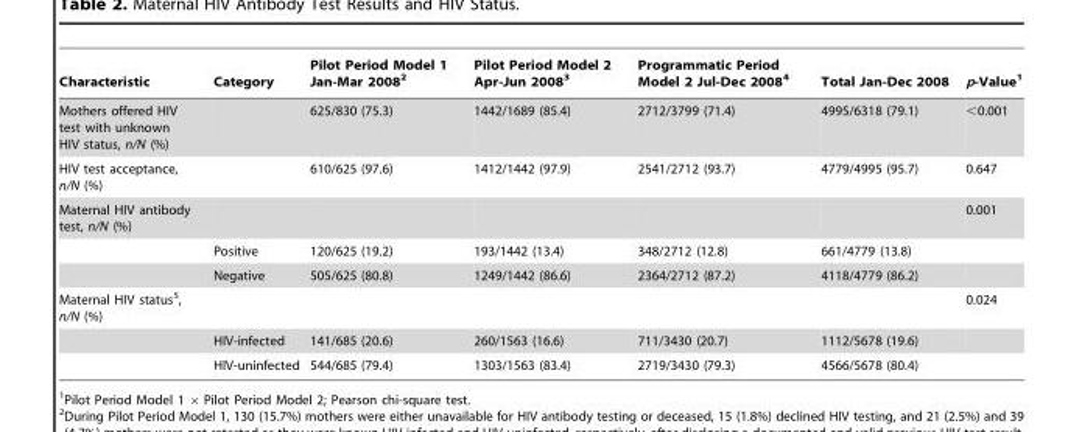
<table><thead><tr><td>Characteristic</td><td>Category</td><td>Pilot Period Model 1 Jan-Mar 2008<sup>2</sup></td><td>Pilot Period Model 2 Apr-Jun 2008<sup>3</sup></td><td>Programmatic Period Model 2 Jul-Dec 2008<sup>4</sup></td><td>Total Jan-Dec 2008</td><td>p-Value<sup>1</sup></td></tr></thead><tbody><tr><td>Mothers offered HIV test with unknown HIV status, n/N (%)</td><td></td><td>625/830 (75.3)</td><td>1442/1689 (85.4)</td><td>2712/3799 (71.4)</td><td>4995/6318 (79.1)</td><td>&lt;0.001</td></tr><tr><td>HIV test acceptance, n/N (%)</td><td></td><td>610/625 (97.6)</td><td>1412/1442 (97.9)</td><td>2541/2712 (93.7)</td><td>4779/4995 (95.7)</td><td>0.647</td></tr><tr><td rowspan="3">Maternal HIV antibody test, n/N (%)</td><td></td><td></td><td></td><td></td><td></td><td>0.001</td></tr><tr><td>Positive</td><td>120/625 (19.2)</td><td>193/1442 (13.4)</td><td>348/2712 (12.8)</td><td>661/4779 (13.8)</td><td></td></tr><tr><td>Negative</td><td>505/625 (80.8)</td><td>1249/1442 (86.6)</td><td>2364/2712 (87.2)</td><td>4118/4779 (86.2)</td><td></td></tr><tr><td rowspan="3">Maternal HIV status<sup>5</sup>, n/N (%)</td><td></td><td></td><td></td><td></td><td></td><td>0.024</td></tr><tr><td>HIV-infected</td><td>141/685 (20.6)</td><td>260/1563 (16.6)</td><td>711/3430 (20.7)</td><td>1112/5678 (19.6)</td><td></td></tr><tr><td>HIV-uninfected</td><td>544/685 (79.4)</td><td>1303/1563 (83.4)</td><td>2719/3430 (79.3)</td><td>4566/5678 (80.4)</td><td></td></tr></tbody></table>